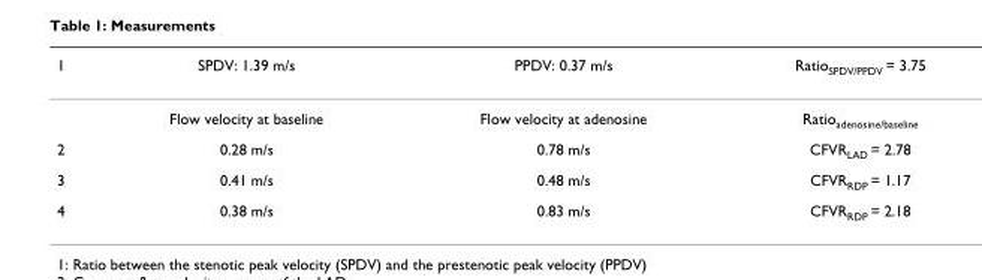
<table><thead><tr><td>1</td><td>SPDV: 1.39 m/s</td><td>PPDV: 0.37 m/s</td><td>Ratio<sub>SPDV/PPDV</sub> = 3.75</td></tr></thead><tbody><tr><td></td><td>Flow velocity at baseline</td><td>Flow velocity at adenosine</td><td>Ratio<sub>adenosine/baseline</sub></td></tr><tr><td>2</td><td>0.28 m/s</td><td>0.78 m/s</td><td>CFVR<sub>LAD</sub> = 2.78</td></tr><tr><td>3</td><td>0.41 m/s</td><td>0.48 m/s</td><td>CFVR<sub>RDP</sub> = 1.17</td></tr><tr><td>4</td><td>0.38 m/s</td><td>0.83 m/s</td><td>CFVR<sub>RDP</sub> = 2.18</td></tr></tbody></table>